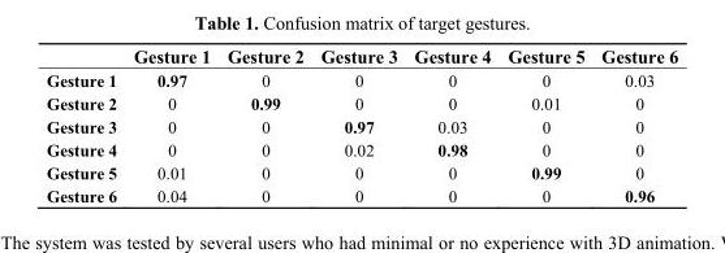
<table><thead><tr><td></td><td>Gesture 1</td><td>Gesture 2</td><td>Gesture 3</td><td>Gesture 4</td><td>Gesture 5</td><td>Gesture 6</td></tr></thead><tbody><tr><td>Gesture 1</td><td>0.97</td><td>0</td><td>0</td><td>0</td><td>0</td><td>0.03</td></tr><tr><td>Gesture 2</td><td>0</td><td>0.99</td><td>0</td><td>0</td><td>0.01</td><td>0</td></tr><tr><td>Gesture 3</td><td>0</td><td>0</td><td>0.97</td><td>0.03</td><td>0</td><td>0</td></tr><tr><td>Gesture 4</td><td>0</td><td>0</td><td>0.02</td><td>0.98</td><td>0</td><td>0</td></tr><tr><td>Gesture 5</td><td>0.01</td><td>0</td><td>0</td><td>0</td><td>0.99</td><td>0</td></tr><tr><td>Gesture 6</td><td>0.04</td><td>0</td><td>0</td><td>0</td><td>0</td><td>0.96</td></tr></tbody></table>